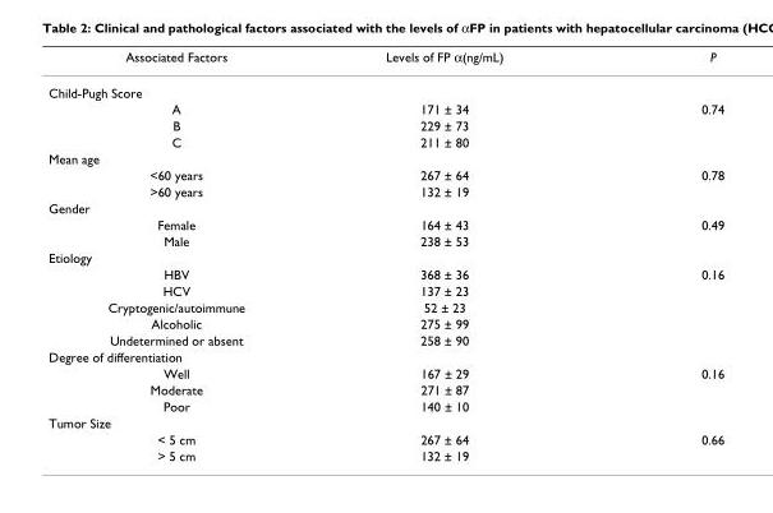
<table><thead><tr><td>Associated Factors</td><td>Levels of FP α(ng/mL)</td><td>P</td></tr></thead><tbody><tr><td colspan="3">Child-Pugh Score</td></tr><tr><td>A</td><td>171 ± 34</td><td>0.74</td></tr><tr><td>B</td><td>229 ± 73</td><td></td></tr><tr><td>C</td><td>211 ± 80</td><td></td></tr><tr><td colspan="3">Mean age</td></tr><tr><td>&lt;60 years</td><td>267 ± 64</td><td>0.78</td></tr><tr><td>&gt;60 years</td><td>132 ± 19</td><td></td></tr><tr><td colspan="3">Gender</td></tr><tr><td>Female</td><td>164 ± 43</td><td>0.49</td></tr><tr><td>Male</td><td>238 ± 53</td><td></td></tr><tr><td colspan="3">Etiology</td></tr><tr><td>HBV</td><td>368 ± 36</td><td>0.16</td></tr><tr><td>HCV</td><td>137 ± 23</td><td></td></tr><tr><td>Cryptogenic/autoimmune</td><td>52 ± 23</td><td></td></tr><tr><td>Alcoholic</td><td>275 ± 99</td><td></td></tr><tr><td>Undetermined or absent</td><td>258 ± 90</td><td></td></tr><tr><td colspan="3">Degree of differentiation</td></tr><tr><td>Well</td><td>167 ± 29</td><td>0.16</td></tr><tr><td>Moderate</td><td>271 ± 87</td><td></td></tr><tr><td>Poor</td><td>140 ± 10</td><td></td></tr><tr><td colspan="3">Tumor Size</td></tr><tr><td>&lt; 5 cm</td><td>267 ± 64</td><td>0.66</td></tr><tr><td>&gt; 5 cm</td><td>132 ± 19</td><td></td></tr></tbody></table>